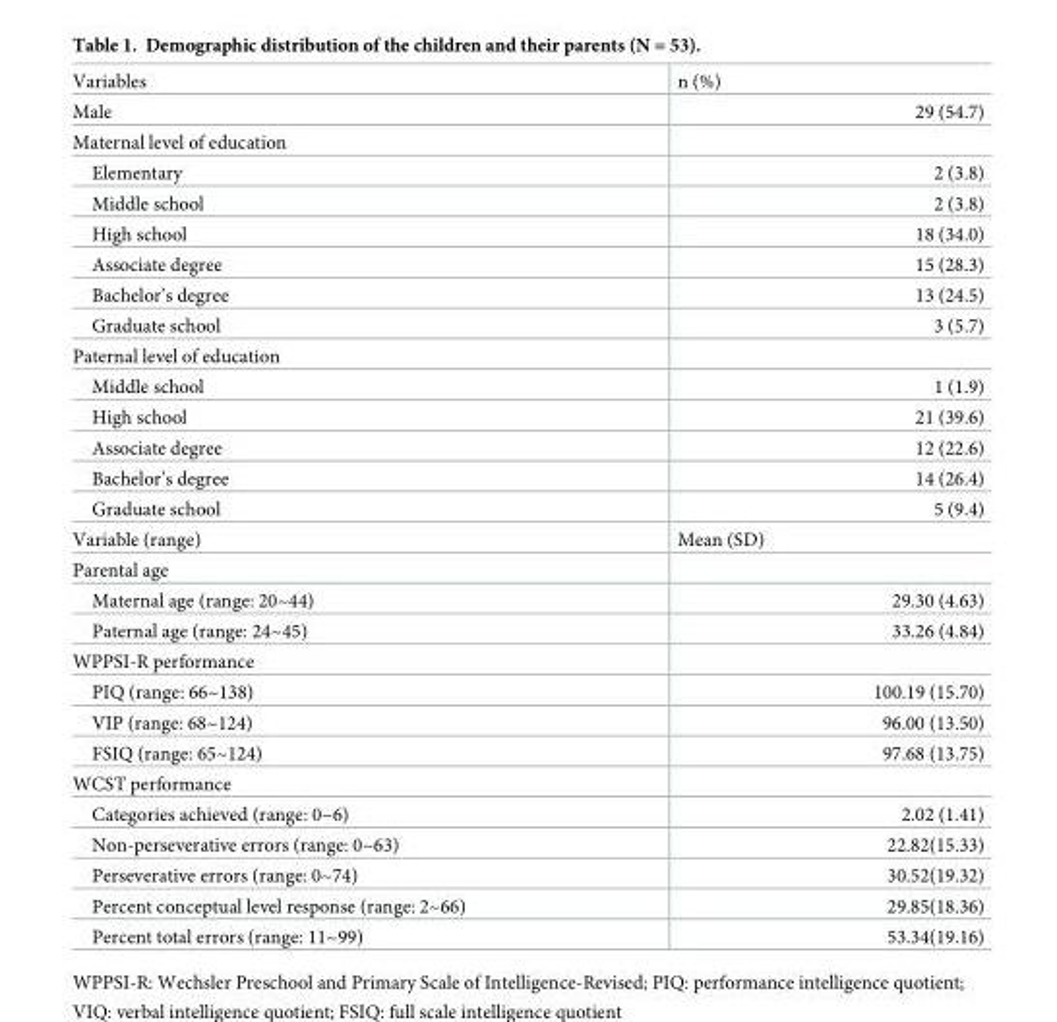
<table><tbody><tr><td>Variables</td><td>n (%)</td></tr><tr><td>Male</td><td>29 (54.7)</td></tr><tr><td colspan="2">Maternal level of education</td></tr><tr><td>Elementary</td><td>2 (3.8)</td></tr><tr><td>Middle school</td><td>2 (3.8)</td></tr><tr><td>High school</td><td>18 (34.0)</td></tr><tr><td>Associate degree</td><td>15 (28.3)</td></tr><tr><td>Bachelor’s degree</td><td>13 (24.5)</td></tr><tr><td>Graduate school</td><td>3 (5.7)</td></tr><tr><td colspan="2">Paternal level of education</td></tr><tr><td>Middle school</td><td>1 (1.9)</td></tr><tr><td>High school</td><td>21 (39.6)</td></tr><tr><td>Associate degree</td><td>12 (22.6)</td></tr><tr><td>Bachelor’s degree</td><td>14 (26.4)</td></tr><tr><td>Graduate school</td><td>5 (9.4)</td></tr><tr><td>Variable (range)</td><td>Mean (SD)</td></tr><tr><td colspan="2">Parental age</td></tr><tr><td>Maternal age (range: 20~44)</td><td>29.30 (4.63)</td></tr><tr><td>Paternal age (range: 24~45)</td><td>33.26 (4.84)</td></tr><tr><td colspan="2">WPPSI-R performance</td></tr><tr><td>PIQ (range: 66~138)</td><td>100.19 (15.70)</td></tr><tr><td>VIP (range: 68~124)</td><td>96.00 (13.50)</td></tr><tr><td>FSIQ (range: 65~124)</td><td>97.68 (13.75)</td></tr><tr><td colspan="2">WCST performance</td></tr><tr><td>Categories achieved (range: 0~6)</td><td>2.02 (1.41)</td></tr><tr><td>Non-perseverative errors (range: 0~63)</td><td>22.82(15.33)</td></tr><tr><td>Perseverative errors (range: 0~74)</td><td>30.52(19.32)</td></tr><tr><td>Percent conceptual level response (range: 2~66)</td><td>29.85(18.36)</td></tr><tr><td>Percent total errors (range: 11~99)</td><td>53.34(19.16)</td></tr></tbody></table>